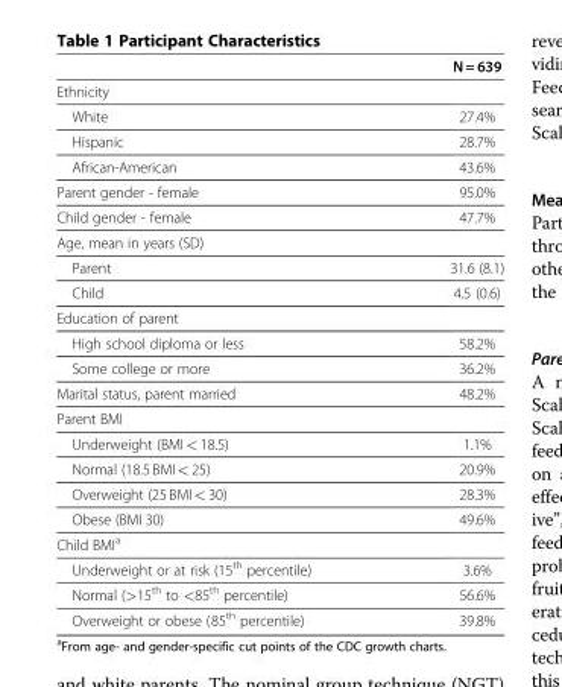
<table><thead><tr><td></td><td>N = 639</td></tr></thead><tbody><tr><td colspan="2">Ethnicity</td></tr><tr><td>White</td><td>27.4%</td></tr><tr><td>Hispanic</td><td>28.7%</td></tr><tr><td>African-American</td><td>43.6%</td></tr><tr><td>Parent gender - female</td><td>95.0%</td></tr><tr><td>Child gender - female</td><td>47.7%</td></tr><tr><td colspan="2">Age, mean in years (SD)</td></tr><tr><td>Parent</td><td>31.6 (8.1)</td></tr><tr><td>Child</td><td>4.5 (0.6)</td></tr><tr><td colspan="2">Education of parent</td></tr><tr><td>High school diploma or less</td><td>58.2%</td></tr><tr><td>Some college or more</td><td>36.2%</td></tr><tr><td>Marital status, parent married</td><td>48.2%</td></tr><tr><td colspan="2">Parent BMI</td></tr><tr><td>Underweight (BMI &lt; 18.5)</td><td>1.1%</td></tr><tr><td>Normal (18.5 BMI &lt; 25)</td><td>20.9%</td></tr><tr><td>Overweight (25 BMI &lt; 30)</td><td>28.3%</td></tr><tr><td>Obese (BMI 30)</td><td>49.6%</td></tr><tr><td colspan="2">Child BMI<sup>a</sup></td></tr><tr><td>Underweight or at risk (15<sup>th</sup> percentile)</td><td>3.6%</td></tr><tr><td>Normal (&gt;15<sup>th</sup> to &lt;85<sup>th</sup> percentile)</td><td>56.6%</td></tr><tr><td>Overweight or obese (85<sup>th</sup> percentile)</td><td>39.8%</td></tr></tbody></table>